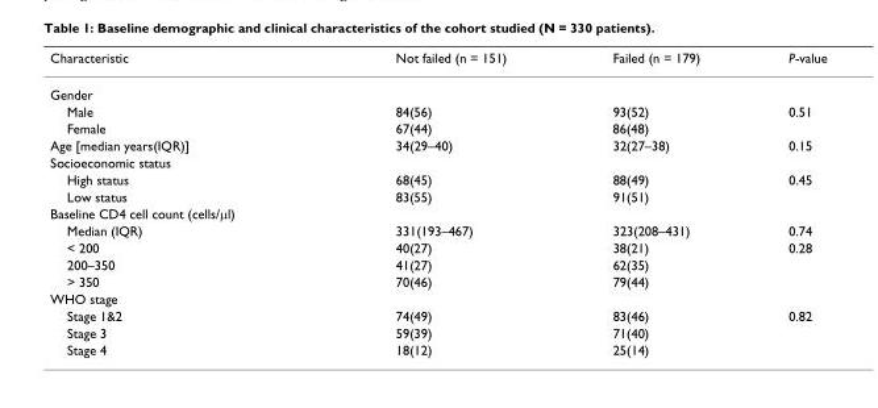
<table><thead><tr><td>Characteristic</td><td>Not failed (n = 151)</td><td>Failed (n = 179)</td><td>P-value</td></tr></thead><tbody><tr><td colspan="4">Gender</td></tr><tr><td>Male</td><td>84(56)</td><td>93(52)</td><td>0.51</td></tr><tr><td>Female</td><td>67(44)</td><td>86(48)</td><td></td></tr><tr><td>Age [median years(IQR)]</td><td>34(29–40)</td><td>32(27–38)</td><td>0.15</td></tr><tr><td colspan="4">Socioeconomic status</td></tr><tr><td>High status</td><td>68(45)</td><td>88(49)</td><td>0.45</td></tr><tr><td>Low status</td><td>83(55)</td><td>91(51)</td><td></td></tr><tr><td colspan="4">Baseline CD4 cell count (cells/μl)</td></tr><tr><td>Median (IQR)</td><td>331(193–467)</td><td>323(208–431)</td><td>0.74</td></tr><tr><td>&lt; 200</td><td>40(27)</td><td>38(21)</td><td>0.28</td></tr><tr><td>200–350</td><td>41(27)</td><td>62(35)</td><td></td></tr><tr><td>&gt; 350</td><td>70(46)</td><td>79(44)</td><td></td></tr><tr><td colspan="4">WHO stage</td></tr><tr><td>Stage 1&amp;2</td><td>74(49)</td><td>83(46)</td><td>0.82</td></tr><tr><td>Stage 3</td><td>59(39)</td><td>71(40)</td><td></td></tr><tr><td>Stage 4</td><td>18(12)</td><td>25(14)</td><td></td></tr></tbody></table>